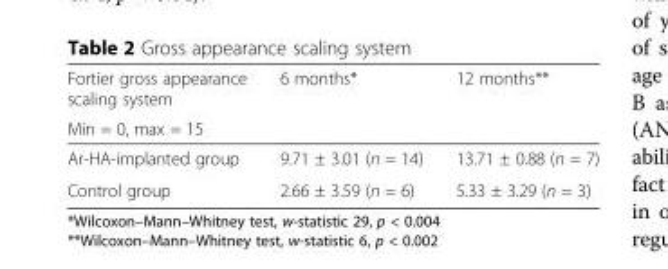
<table><thead><tr><td rowspan="2">Fortier gross appearance scaling system Min = 0, max = 15</td><td rowspan="2">6 months*</td><td rowspan="2">12 months**</td></tr><tr></tr></thead><tbody><tr><td>Ar-HA-implanted group</td><td>9.71 ± 3.01 (n = 14)</td><td>13.71 ± 0.88 (n = 7)</td></tr><tr><td>Control group</td><td>2.66 ± 3.59 (n = 6)</td><td>5.33 ± 3.29 (n = 3)</td></tr></tbody></table>